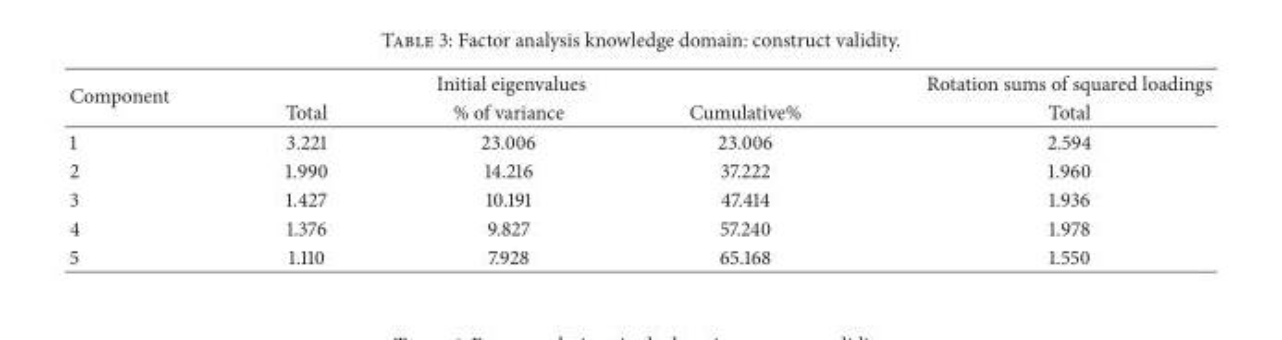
<table><thead><tr><td rowspan="2">Component</td><td colspan="3">Initial eigenvalues</td><td rowspan="2">Rotation sums of squared loadings Total</td></tr><tr><td>Total</td><td>% of variance</td><td>Cumulative%</td></tr></thead><tbody><tr><td>1</td><td>3.221</td><td>23.006</td><td>23.006</td><td>2.594</td></tr><tr><td>2</td><td>1.990</td><td>14.216</td><td>37.222</td><td>1.960</td></tr><tr><td>3</td><td>1.427</td><td>10.191</td><td>47.414</td><td>1.936</td></tr><tr><td>4</td><td>1.376</td><td>9.827</td><td>57.240</td><td>1.978</td></tr><tr><td>5</td><td>1.110</td><td>7.928</td><td>65.168</td><td>1.550</td></tr></tbody></table>